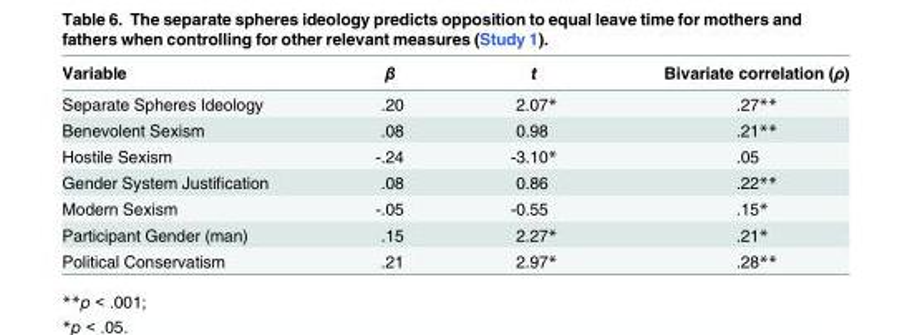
<table><thead><tr><td>Variable</td><td>β</td><td>t</td><td>Bivariate correlation (ρ)</td></tr></thead><tbody><tr><td>Separate Spheres Ideology</td><td>.20</td><td>2.07*</td><td>.27**</td></tr><tr><td>Benevolent Sexism</td><td>.08</td><td>0.98</td><td>.21**</td></tr><tr><td>Hostile Sexism</td><td>-.24</td><td>-3.10*</td><td>.05</td></tr><tr><td>Gender System Justification</td><td>.08</td><td>0.86</td><td>.22**</td></tr><tr><td>Modern Sexism</td><td>-.05</td><td>-0.55</td><td>.15*</td></tr><tr><td>Participant Gender (man)</td><td>.15</td><td>2.27*</td><td>.21*</td></tr><tr><td>Political Conservatism</td><td>.21</td><td>2.97*</td><td>.28**</td></tr></tbody></table>